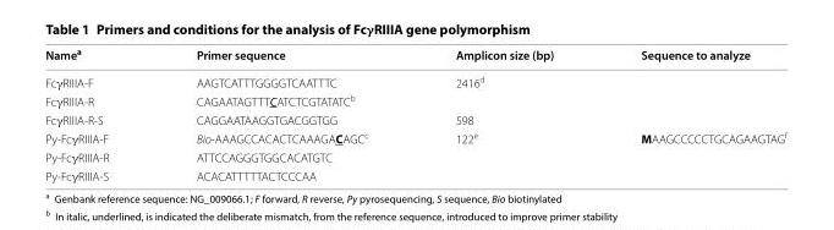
<table><thead><tr><td>Name<sup>a</sup></td><td>Primer sequence</td><td>Amplicon size (bp)</td><td>Sequence to analyze</td></tr></thead><tbody><tr><td>FcγRIIIA-F</td><td>AAGTCATTTGGGGTCAATTTC</td><td>2416<sup>d</sup></td><td></td></tr><tr><td>FcγRIIIA-R</td><td>CAGAATAGTTTCATCTCGTATATC<sup>b</sup></td><td></td><td></td></tr><tr><td>FcγRIIIA-R-S</td><td>CAGGAATAAGGTGACGGTGG</td><td>598</td><td></td></tr><tr><td>Py-FcγRIIIA-F</td><td>Bio-AAAGCCACACTCAAAGACAGC<sup>c</sup></td><td>122<sup>e</sup></td><td>MAAGCCCCCTGCAGAAGTAG<sup>f</sup></td></tr><tr><td>Py-FcγRIIIA-R</td><td>ATTCCAGGGTGGCACATGTC</td><td></td><td></td></tr><tr><td>Py-FcγRIIIA-S</td><td>ACACATTTTTACTCCCAA</td><td></td><td></td></tr></tbody></table>